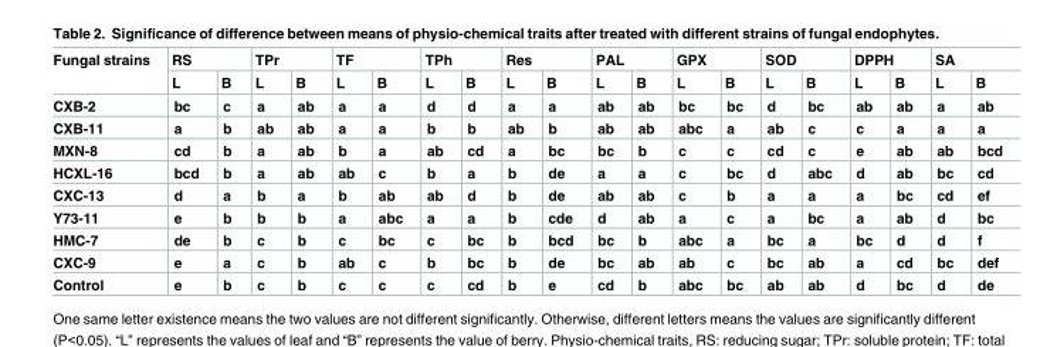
<table><thead><tr><td rowspan="2">Fungal strains</td><td colspan="2">RS</td><td colspan="2">TPr</td><td colspan="2">TF</td><td colspan="2">TPh</td><td colspan="2">Res</td><td colspan="2">PAL</td><td colspan="2">GPX</td><td colspan="2">SOD</td><td colspan="2">DPPH</td><td colspan="2">SA</td></tr><tr><td>L</td><td>B</td><td>L</td><td>B</td><td>L</td><td>B</td><td>L</td><td>B</td><td>L</td><td>B</td><td>L</td><td>B</td><td>L</td><td>B</td><td>L</td><td>B</td><td>L</td><td>B</td><td>L</td><td>B</td></tr></thead><tbody><tr><td>CXB-2</td><td>bc</td><td>c</td><td>a</td><td>ab</td><td>a</td><td>a</td><td>d</td><td>d</td><td>a</td><td>a</td><td>ab</td><td>ab</td><td>bc</td><td>bc</td><td>d</td><td>bc</td><td>ab</td><td>ab</td><td>a</td><td>ab</td></tr><tr><td>CXB-11</td><td>a</td><td>b</td><td>ab</td><td>ab</td><td>a</td><td>a</td><td>b</td><td>b</td><td>ab</td><td>b</td><td>ab</td><td>ab</td><td>abc</td><td>a</td><td>ab</td><td>c</td><td>c</td><td>a</td><td>a</td><td>a</td></tr><tr><td>MXN-8</td><td>cd</td><td>b</td><td>a</td><td>ab</td><td>b</td><td>a</td><td>ab</td><td>cd</td><td>a</td><td>bc</td><td>bc</td><td>b</td><td>c</td><td>c</td><td>cd</td><td>c</td><td>e</td><td>ab</td><td>ab</td><td>bcd</td></tr><tr><td>HCXL-16</td><td>bcd</td><td>b</td><td>a</td><td>ab</td><td>ab</td><td>c</td><td>b</td><td>a</td><td>b</td><td>de</td><td>a</td><td>a</td><td>c</td><td>bc</td><td>d</td><td>abc</td><td>d</td><td>ab</td><td>bc</td><td>cd</td></tr><tr><td>CXC-13</td><td>d</td><td>a</td><td>b</td><td>a</td><td>b</td><td>ab</td><td>ab</td><td>d</td><td>b</td><td>de</td><td>ab</td><td>ab</td><td>c</td><td>b</td><td>a</td><td>a</td><td>a</td><td>bc</td><td>cd</td><td>ef</td></tr><tr><td>Y73-11</td><td>e</td><td>b</td><td>b</td><td>b</td><td>a</td><td>abc</td><td>a</td><td>a</td><td>b</td><td>cde</td><td>d</td><td>ab</td><td>a</td><td>c</td><td>a</td><td>bc</td><td>a</td><td>ab</td><td>d</td><td>bc</td></tr><tr><td>HMC-7</td><td>de</td><td>b</td><td>c</td><td>b</td><td>c</td><td>bc</td><td>c</td><td>bc</td><td>b</td><td>bcd</td><td>bc</td><td>b</td><td>abc</td><td>a</td><td>bc</td><td>a</td><td>bc</td><td>d</td><td>d</td><td>f</td></tr><tr><td>CXC-9</td><td>e</td><td>a</td><td>c</td><td>b</td><td>ab</td><td>c</td><td>b</td><td>bc</td><td>b</td><td>de</td><td>bc</td><td>ab</td><td>ab</td><td>c</td><td>bc</td><td>ab</td><td>a</td><td>cd</td><td>bc</td><td>def</td></tr><tr><td>Control</td><td>e</td><td>b</td><td>c</td><td>b</td><td>c</td><td>c</td><td>c</td><td>cd</td><td>b</td><td>e</td><td>cd</td><td>b</td><td>abc</td><td>bc</td><td>ab</td><td>ab</td><td>d</td><td>bc</td><td>d</td><td>de</td></tr></tbody></table>